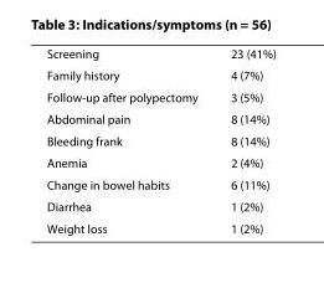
<table><tbody><tr><td>Screening</td><td>23 (41%)</td></tr><tr><td>Family history</td><td>4 (7%)</td></tr><tr><td>Follow-up after polypectomy</td><td>3 (5%)</td></tr><tr><td>Abdominal pain</td><td>8 (14%)</td></tr><tr><td>Bleeding frank</td><td>8 (14%)</td></tr><tr><td>Anemia</td><td>2 (4%)</td></tr><tr><td>Change in bowel habits</td><td>6 (11%)</td></tr><tr><td>Diarrhea</td><td>1 (2%)</td></tr><tr><td>Weight loss</td><td>1 (2%)</td></tr></tbody></table>